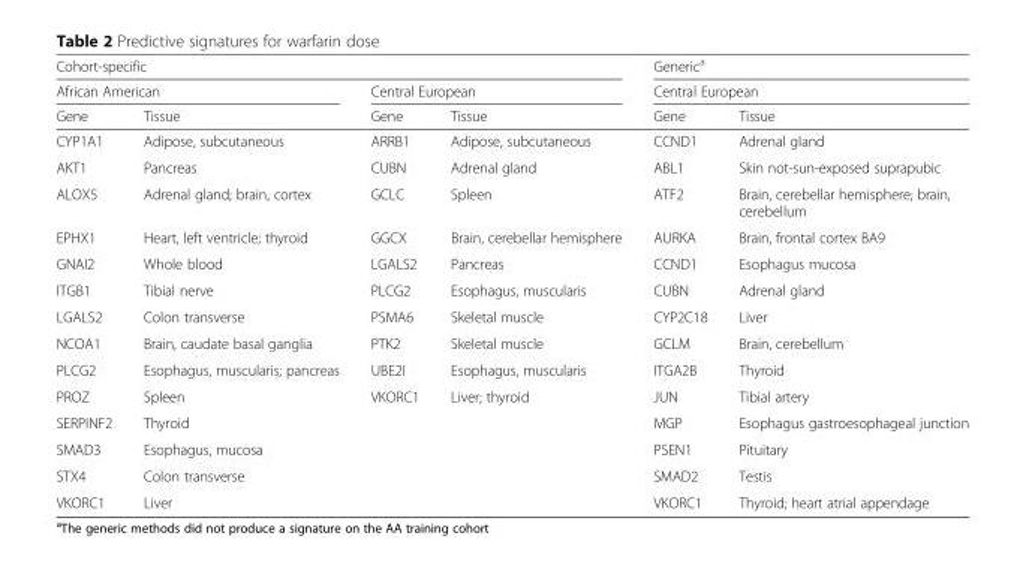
<table><thead><tr><td colspan="4">Cohort-specific</td><td rowspan="2" colspan="2">Generic<sup>a</sup> Central European</td></tr><tr><td colspan="2">African American</td><td colspan="2">Central European</td></tr><tr><td>Gene</td><td>Tissue</td><td>Gene</td><td>Tissue</td><td>Gene</td><td>Tissue</td></tr></thead><tbody><tr><td>CYP1A1</td><td>Adipose, subcutaneous</td><td>ARRB1</td><td>Adipose, subcutaneous</td><td>CCND1</td><td>Adrenal gland</td></tr><tr><td>AKT1</td><td>Pancreas</td><td>CUBN</td><td>Adrenal gland</td><td>ABL1</td><td>Skin not-sun-exposed suprapubic</td></tr><tr><td>ALOX5</td><td>Adrenal gland; brain, cortex</td><td>GCLC</td><td>Spleen</td><td>ATF2</td><td>Brain, cerebellar hemisphere; brain, cerebellum</td></tr><tr><td>EPHX1</td><td>Heart, left ventricle; thyroid</td><td>GGCX</td><td>Brain, cerebellar hemisphere</td><td>AURKA</td><td>Brain, frontal cortex BA9</td></tr><tr><td>GNAI2</td><td>Whole blood</td><td>LGALS2</td><td>Pancreas</td><td>CCND1</td><td>Esophagus mucosa</td></tr><tr><td>ITGB1</td><td>Tibial nerve</td><td>PLCG2</td><td>Esophagus, muscularis</td><td>CUBN</td><td>Adrenal gland</td></tr><tr><td>LGALS2</td><td>Colon transverse</td><td>PSMA6</td><td>Skeletal muscle</td><td>CYP2C18</td><td>Liver</td></tr><tr><td>NCOA1</td><td>Brain, caudate basal ganglia</td><td>PTK2</td><td>Skeletal muscle</td><td>GCLM</td><td>Brain, cerebellum</td></tr><tr><td>PLCG2</td><td>Esophagus, muscularis; pancreas</td><td>UBE2I</td><td>Esophagus, muscularis</td><td>ITGA2B</td><td>Thyroid</td></tr><tr><td>PROZ</td><td>Spleen</td><td>VKORC1</td><td>Liver; thyroid</td><td>JUN</td><td>Tibial artery</td></tr><tr><td>SERPINF2</td><td>Thyroid</td><td></td><td></td><td>MGP</td><td>Esophagus gastroesophageal junction</td></tr><tr><td>SMAD3</td><td>Esophagus, mucosa</td><td></td><td></td><td>PSEN1</td><td>Pituitary</td></tr><tr><td>STX4</td><td>Colon transverse</td><td></td><td></td><td>SMAD2</td><td>Testis</td></tr><tr><td>VKORC1</td><td>Liver</td><td></td><td></td><td>VKORC1</td><td>Thyroid; heart atrial appendage</td></tr></tbody></table>